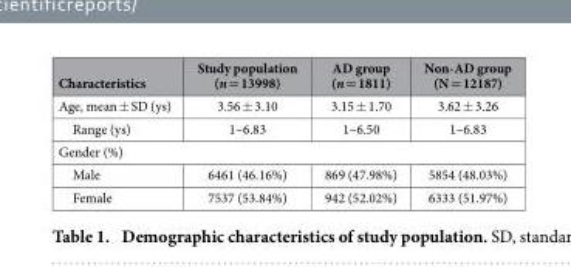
<table><thead><tr><td>Characteristics</td><td>Study population (n = 13998)</td><td>AD group (n = 1811)</td><td>Non-AD group (N = 12187)</td></tr></thead><tbody><tr><td>Age, mean ± SD (ys)</td><td>3.56 ± 3.10</td><td>3.15 ± 1.70</td><td>3.62 ± 3.26</td></tr><tr><td>Range (ys)</td><td>1–6.83</td><td>1–6.50</td><td>1–6.83</td></tr><tr><td colspan="4">Gender (%)</td></tr><tr><td>Male</td><td>6461 (46.16%)</td><td>869 (47.98%)</td><td>5854 (48.03%)</td></tr><tr><td>Female</td><td>7537 (53.84%)</td><td>942 (52.02%)</td><td>6333 (51.97%)</td></tr></tbody></table>